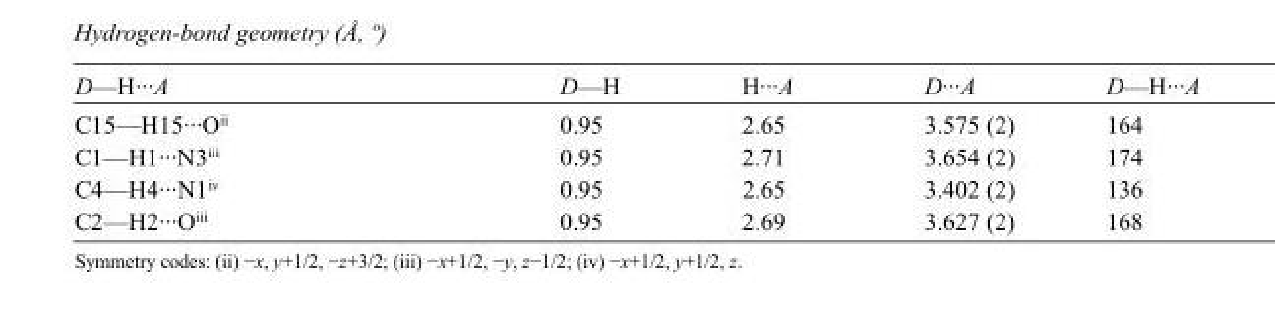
<table><tbody><tr><td>D—H···A</td><td>D—H</td><td>H···A</td><td>D···A</td><td>D—H···A</td></tr><tr><td>C15—H15···O<sup>ii</sup></td><td>0.95</td><td>2.65</td><td>3.575 (2)</td><td>164</td></tr><tr><td>C1—H1···N3<sup>iii</sup></td><td>0.95</td><td>2.71</td><td>3.654 (2)</td><td>174</td></tr><tr><td>C4—H4···N1<sup>iv</sup></td><td>0.95</td><td>2.65</td><td>3.402 (2)</td><td>136</td></tr><tr><td>C2—H2···O<sup>iii</sup></td><td>0.95</td><td>2.69</td><td>3.627 (2)</td><td>168</td></tr></tbody></table>